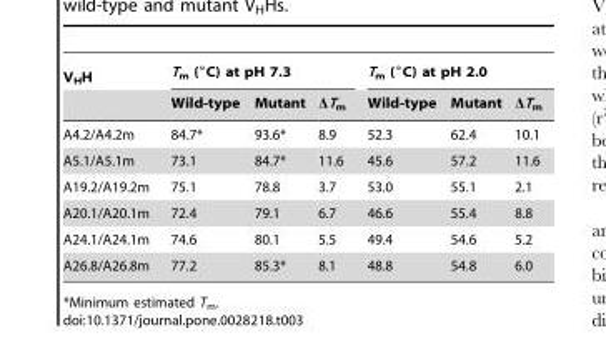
<table><thead><tr><td rowspan="2">V<sub>H</sub>H</td><td colspan="3">T<sub>m</sub> (°C) at pH 7.3</td><td colspan="3">T<sub>m</sub> (°C) at pH 2.0</td></tr><tr><td>Wild-type</td><td>Mutant</td><td>ΔT<sub>m</sub></td><td>Wild-type</td><td>Mutant</td><td>ΔT<sub>m</sub></td></tr></thead><tbody><tr><td>A4.2/A4.2m</td><td>84.7*</td><td>93.6*</td><td>8.9</td><td>52.3</td><td>62.4</td><td>10.1</td></tr><tr><td>A5.1/A5.1m</td><td>73.1</td><td>84.7*</td><td>11.6</td><td>45.6</td><td>57.2</td><td>11.6</td></tr><tr><td>A19.2/A19.2m</td><td>75.1</td><td>78.8</td><td>3.7</td><td>53.0</td><td>55.1</td><td>2.1</td></tr><tr><td>A20.1/A20.1m</td><td>72.4</td><td>79.1</td><td>6.7</td><td>46.6</td><td>55.4</td><td>8.8</td></tr><tr><td>A24.1/A24.1m</td><td>74.6</td><td>80.1</td><td>5.5</td><td>49.4</td><td>54.6</td><td>5.2</td></tr><tr><td>A26.8/A26.8m</td><td>77.2</td><td>85.3*</td><td>8.1</td><td>48.8</td><td>54.8</td><td>6.0</td></tr></tbody></table>